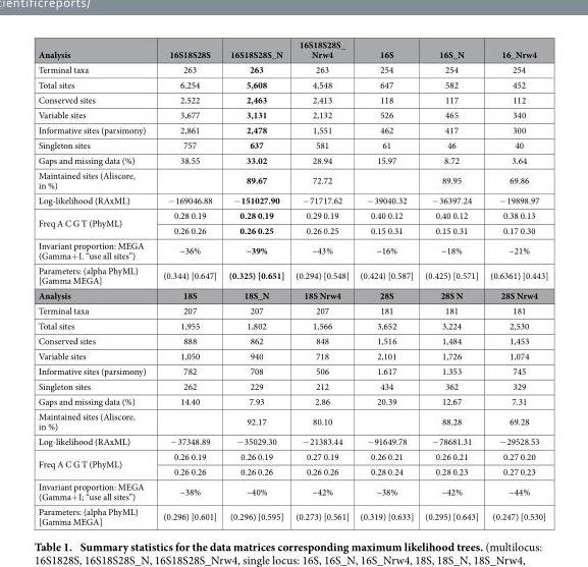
<table><thead><tr><td>Analysis</td><td>16S18S28S</td><td>16S18S28S_N</td><td>16S18S28S_ Nrw4</td><td>16S</td><td>16S_N</td><td>16_Nrw4</td></tr></thead><tbody><tr><td>Terminal taxa</td><td>263</td><td>263</td><td>263</td><td>254</td><td>254</td><td>254</td></tr><tr><td>Total sites</td><td>6,254</td><td>5,608</td><td>4,548</td><td>647</td><td>582</td><td>452</td></tr><tr><td>Conserved sites</td><td>2,522</td><td>2,463</td><td>2,413</td><td>118</td><td>117</td><td>112</td></tr><tr><td>Variable sites</td><td>3,677</td><td>3,131</td><td>2,132</td><td>526</td><td>465</td><td>340</td></tr><tr><td>Informative sites (parsimony)</td><td>2,861</td><td>2,478</td><td>1,551</td><td>462</td><td>417</td><td>300</td></tr><tr><td>Singleton sites</td><td>757</td><td>637</td><td>581</td><td>61</td><td>46</td><td>40</td></tr><tr><td>Gaps and missing data (%)</td><td>38.55</td><td>33.02</td><td>28.94</td><td>15.97</td><td>8.72</td><td>3.64</td></tr><tr><td>Maintained sites (Aliscore, in %)</td><td></td><td>89.67</td><td>72.72</td><td></td><td>89.95</td><td>69.86</td></tr><tr><td>Log-likelihood (RAxML)</td><td>− 169046.88</td><td>− 151027.90</td><td>− 71717.62</td><td>− 39040.32</td><td>− 36397.24</td><td>− 19898.97</td></tr><tr><td rowspan="2">Freq A C G T (PhyML)</td><td>0.28 0.19</td><td>0.28 0.19</td><td>0.29 0.19</td><td>0.40 0.12</td><td>0.40 0.12</td><td>0.38 0.13</td></tr><tr><td>0.26 0.26</td><td>0.26 0.25</td><td>0.26 0.25</td><td>0.15 0.31</td><td>0.15 0.31</td><td>0.17 0.30</td></tr><tr><td>Invariant proportion: MEGA (Gamma+ I. “use all sites”)</td><td>~36%</td><td>~39%</td><td>~43%</td><td>~16%</td><td>~18%</td><td>~21%</td></tr><tr><td>Parameters: (alpha PhyML) [Gamma MEGA]</td><td>(0.344) [0.647]</td><td>(0.325) [0.651]</td><td>(0.294) [0.548]</td><td>(0.424) [0.587]</td><td>(0.425) [0.571]</td><td>(0.6361) [0.443]</td></tr><tr><td>Analysis</td><td>18S</td><td>18S_N</td><td>18S Nrw4</td><td>28S</td><td>28S N</td><td>28S Nrw4</td></tr><tr><td>Terminal taxa</td><td>207</td><td>207</td><td>207</td><td>181</td><td>181</td><td>181</td></tr><tr><td>Total sites</td><td>1,955</td><td>1,802</td><td>1,566</td><td>3,652</td><td>3,224</td><td>2,530</td></tr><tr><td>Conserved sites</td><td>888</td><td>862</td><td>848</td><td>1,516</td><td>1,484</td><td>1,453</td></tr><tr><td>Variable sites</td><td>1,050</td><td>940</td><td>718</td><td>2,101</td><td>1,726</td><td>1,074</td></tr><tr><td>Informative sites (parsimony)</td><td>782</td><td>708</td><td>506</td><td>1.617</td><td>1.353</td><td>745</td></tr><tr><td>Singleton sites</td><td>262</td><td>229</td><td>212</td><td>434</td><td>362</td><td>329</td></tr><tr><td>Gaps and missing data (%)</td><td>14.40</td><td>7.93</td><td>2.86</td><td>20.39</td><td>12.67</td><td>7.31</td></tr><tr><td>Maintained sites (Aliscore, in %)</td><td></td><td>92.17</td><td>80.10</td><td></td><td>88.28</td><td>69.28</td></tr><tr><td>Log-likelihood (RAxML)</td><td>− 37348.89</td><td>− 35029.30</td><td>− 21383.44</td><td>− 91649.78</td><td>− 78681.31</td><td>− 29528.53</td></tr><tr><td rowspan="2">Freq A C G T (PhyML)</td><td>0.26 0.19</td><td>0.26 0.19</td><td>0.27 0.19</td><td>0.26 0.21</td><td>0.26 0.21</td><td>0.27 0.20</td></tr><tr><td>0.26 0.26</td><td>0.26 0.26</td><td>0.26 0.26</td><td>0.28 0.24</td><td>0.28 0.23</td><td>0.27 0.23</td></tr><tr><td>Invariant proportion: MEGA (Gamma+ I; “use all sites”)</td><td>~38%</td><td>~40%</td><td>~42%</td><td>~38%</td><td>~42%</td><td>~44%</td></tr><tr><td>Parameters: (alpha PhyML) [Gamma MEGA]</td><td>(0.296) [0.601]</td><td>(0.296) [0.595]</td><td>(0.273) [0.561]</td><td>(0.319) [0.633]</td><td>(0.295) [0.643]</td><td>(0.247) [0.530]</td></tr></tbody></table>